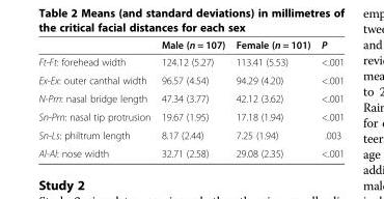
<table><thead><tr><td></td><td>Male (n = 107)</td><td>Female (n = 101)</td><td>P</td></tr></thead><tbody><tr><td>Ft-Ft: forehead width</td><td>124.12 (5.27)</td><td>113.41 (5.53)</td><td>&lt;.001</td></tr><tr><td>Ex-Ex: outer canthal width</td><td>96.57 (4.54)</td><td>94.29 (4.20)</td><td>&lt;.001</td></tr><tr><td>N-Prn: nasal bridge length</td><td>47.34 (3.77)</td><td>42.12 (3.62)</td><td>&lt;.001</td></tr><tr><td>Sn-Prn: nasal tip protrusion</td><td>19.67 (1.95)</td><td>17.18 (1.94)</td><td>&lt;.001</td></tr><tr><td>Sn-Ls: philtrum length</td><td>8.17 (2.44)</td><td>7.25 (1.94)</td><td>.003</td></tr><tr><td>Al-Al: nose width</td><td>32.71 (2.58)</td><td>29.08 (2.35)</td><td>&lt;.001</td></tr></tbody></table>